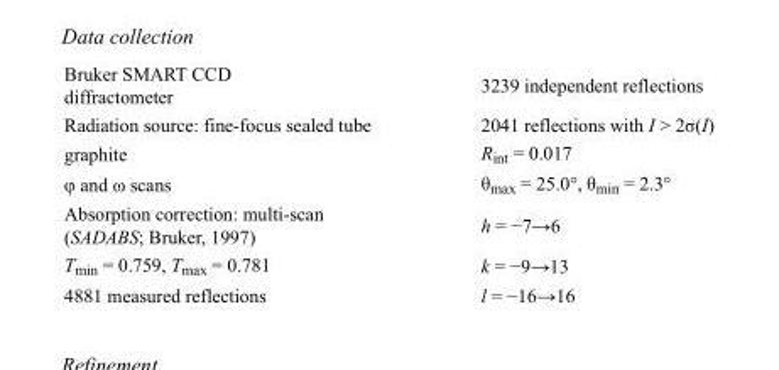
<table><tbody><tr><td>Bruker SMART CCD diffractometer</td><td>3239 independent reflections</td></tr><tr><td>Radiation source: fine-focus sealed tube</td><td>2041 reflections with I &gt; 2σ(I)</td></tr><tr><td>graphite</td><td>R<sub>int</sub> = 0.017</td></tr><tr><td>φ and ω scans</td><td>θ<sub>max</sub> = 25.0°, θ<sub>min</sub> = 2.3°</td></tr><tr><td>Absorption correction: multi-scan (SADABS; Bruker, 1997)</td><td>h = −7→6</td></tr><tr><td>T<sub>min</sub> = 0.759, T<sub>max</sub> = 0.781</td><td>k = −9→13</td></tr><tr><td>4881 measured reflections</td><td>l = −16→16</td></tr></tbody></table>